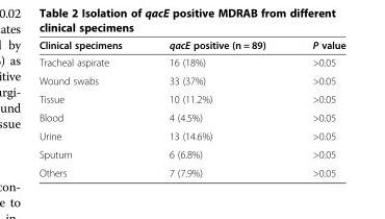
<table><thead><tr><td>Clinical specimens</td><td>qacE positive (n = 89)</td><td>P value</td></tr></thead><tbody><tr><td>Tracheal aspirate</td><td>16 (18%)</td><td>&gt;0.05</td></tr><tr><td>Wound swabs</td><td>33 (37%)</td><td>&gt;0.05</td></tr><tr><td>Tissue</td><td>10 (11.2%)</td><td>&gt;0.05</td></tr><tr><td>Blood</td><td>4 (4.5%)</td><td>&gt;0.05</td></tr><tr><td>Urine</td><td>13 (14.6%)</td><td>&gt;0.05</td></tr><tr><td>Sputum</td><td>6 (6.8%)</td><td>&gt;0.05</td></tr><tr><td>Others</td><td>7 (7.9%)</td><td>&gt;0.05</td></tr></tbody></table>